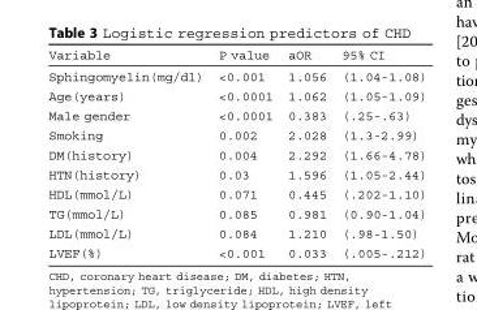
<table><thead><tr><td>Variable</td><td>P value</td><td>aOR</td><td>95% CI</td></tr></thead><tbody><tr><td>Sphingomyelin(mg/dl)</td><td>&lt;0.001</td><td>1.056</td><td>(1.04-1.08)</td></tr><tr><td>Age(years)</td><td>&lt;0.0001</td><td>1.062</td><td>(1.05-1.09)</td></tr><tr><td>Male gender</td><td>&lt;0.0001</td><td>0.383</td><td>(.25-.63)</td></tr><tr><td>Smoking</td><td>0.002</td><td>2.028</td><td>(1.3-2.99)</td></tr><tr><td>DM(history)</td><td>0.004</td><td>2.292</td><td>(1.66-4.78)</td></tr><tr><td>HTN(history)</td><td>0.03</td><td>1.596</td><td>(1.05-2.44)</td></tr><tr><td>HDL(mmol/L)</td><td>0.071</td><td>0.445</td><td>(.202-1.10)</td></tr><tr><td>TG(mmol/L)</td><td>0.085</td><td>0.981</td><td>(0.90-1.04)</td></tr><tr><td>LDL(mmol/L)</td><td>0.084</td><td>1.210</td><td>(.98-1.50)</td></tr><tr><td>LVEF(%)</td><td>&lt;0.001</td><td>0.033</td><td>(.005-.212)</td></tr></tbody></table>